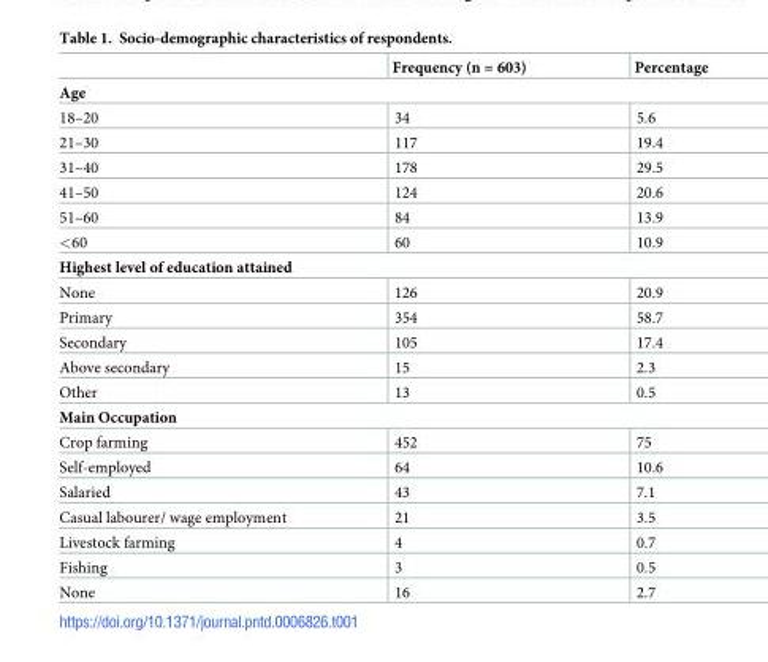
<table><thead><tr><td></td><td>Frequency (n = 603)</td><td>Percentage</td></tr></thead><tbody><tr><td colspan="3">Age</td></tr><tr><td>18–20</td><td>34</td><td>5.6</td></tr><tr><td>21–30</td><td>117</td><td>19.4</td></tr><tr><td>31–40</td><td>178</td><td>29.5</td></tr><tr><td>41–50</td><td>124</td><td>20.6</td></tr><tr><td>51–60</td><td>84</td><td>13.9</td></tr><tr><td>&lt;60</td><td>60</td><td>10.9</td></tr><tr><td colspan="3">Highest level of education attained</td></tr><tr><td>None</td><td>126</td><td>20.9</td></tr><tr><td>Primary</td><td>354</td><td>58.7</td></tr><tr><td>Secondary</td><td>105</td><td>17.4</td></tr><tr><td>Above secondary</td><td>15</td><td>2.3</td></tr><tr><td>Other</td><td>13</td><td>0.5</td></tr><tr><td colspan="3">Main Occupation</td></tr><tr><td>Crop farming</td><td>452</td><td>75</td></tr><tr><td>Self-employed</td><td>64</td><td>10.6</td></tr><tr><td>Salaried</td><td>43</td><td>7.1</td></tr><tr><td>Casual labourer/ wage employment</td><td>21</td><td>3.5</td></tr><tr><td>Livestock farming</td><td>4</td><td>0.7</td></tr><tr><td>Fishing</td><td>3</td><td>0.5</td></tr><tr><td>None</td><td>16</td><td>2.7</td></tr></tbody></table>